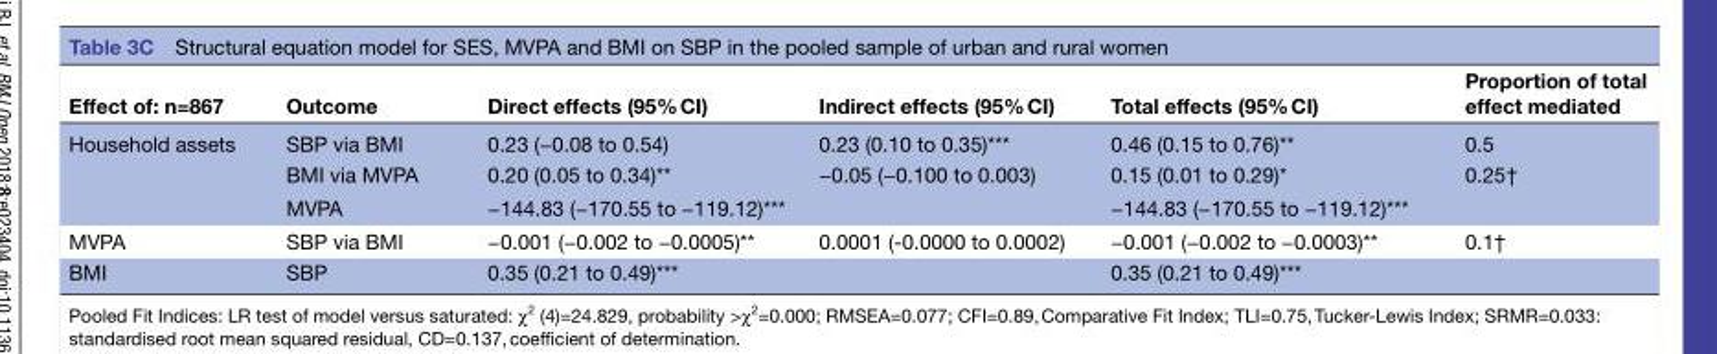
<table><thead><tr><td>Effect of: n=867</td><td>Outcome</td><td>Direct effects (95% CI)</td><td>Indirect effects (95% CI)</td><td>Total effects (95% CI)</td><td>Proportion of total effect mediated</td></tr></thead><tbody><tr><td rowspan="3">Household assets</td><td>SBP via BMI</td><td>0.23 (−0.08 to 0.54)</td><td>0.23 (0.10 to 0.35)***</td><td>0.46 (0.15 to 0.76)**</td><td>0.5</td></tr><tr><td>BMI via MVPA</td><td>0.20 (0.05 to 0.34)**</td><td>−0.05 (−0.100 to 0.003)</td><td>0.15 (0.01 to 0.29)*</td><td>0.25†</td></tr><tr><td>MVPA</td><td>−144.83 (−170.55 to −119.12)***</td><td></td><td>−144.83 (−170.55 to −119.12)***</td><td></td></tr><tr><td>MVPA</td><td>SBP via BMI</td><td>−0.001 (−0.002 to −0.0005)**</td><td>0.0001 (-0.0000 to 0.0002)</td><td>−0.001 (−0.002 to −0.0003)**</td><td>0.1†</td></tr><tr><td>BMI</td><td>SBP</td><td>0.35 (0.21 to 0.49)***</td><td></td><td>0.35 (0.21 to 0.49)***</td><td></td></tr></tbody></table>